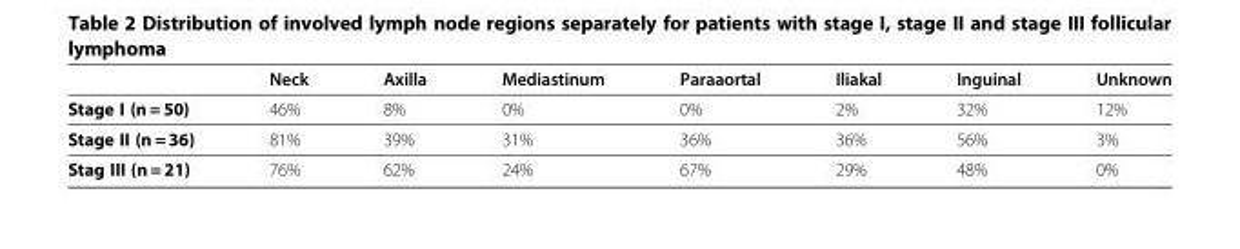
<table><thead><tr><td></td><td>Neck</td><td>Axilla</td><td>Mediastinum</td><td>Paraaortal</td><td>Iliakal</td><td>Inguinal</td><td>Unknown</td></tr></thead><tbody><tr><td>Stage I (n = 50)</td><td>46%</td><td>8%</td><td>0%</td><td>0%</td><td>2%</td><td>32%</td><td>12%</td></tr><tr><td>Stage II (n = 36)</td><td>81%</td><td>39%</td><td>31%</td><td>36%</td><td>36%</td><td>56%</td><td>3%</td></tr><tr><td>Stag III (n = 21)</td><td>76%</td><td>62%</td><td>24%</td><td>67%</td><td>29%</td><td>48%</td><td>0%</td></tr></tbody></table>